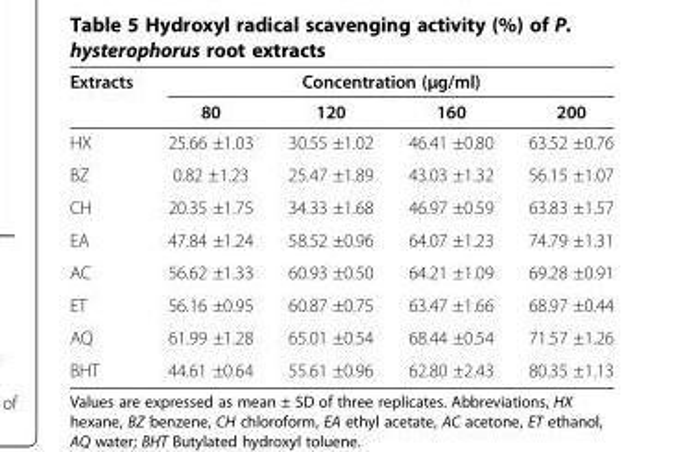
<table><thead><tr><td rowspan="2">Extracts</td><td colspan="4">Concentration (μg/ml)</td></tr><tr><td>80</td><td>120</td><td>160</td><td>200</td></tr></thead><tbody><tr><td>HX</td><td>25.66 ±1.03</td><td>30.55 ±1.02</td><td>46.41 ±0.80</td><td>63.52 ±0.76</td></tr><tr><td>BZ</td><td>0.82 ±1.23</td><td>25.47 ±1.89</td><td>43.03 ±1.32</td><td>56.15 ±1.07</td></tr><tr><td>CH</td><td>20.35 ±1.75</td><td>34.33 ±1.68</td><td>46.97 ±0.59</td><td>63.83 ±1.57</td></tr><tr><td>EA</td><td>47.84 ±1.24</td><td>58.52 ±0.96</td><td>64.07 ±1.23</td><td>74.79 ±1.31</td></tr><tr><td>AC</td><td>56.62 ±1.33</td><td>60.93 ±0.50</td><td>64.21 ±1.09</td><td>69.28 ±0.91</td></tr><tr><td>ET</td><td>56.16 ±0.95</td><td>60.87 ±0.75</td><td>63.47 ±1.66</td><td>68.97 ±0.44</td></tr><tr><td>AQ</td><td>61.99 ±1.28</td><td>65.01 ±0.54</td><td>68.44 ±0.54</td><td>71.57 ±1.26</td></tr><tr><td>BHT</td><td>44.61 ±0.64</td><td>55.61 ±0.96</td><td>62.80 ±2.43</td><td>80.35 ±1.13</td></tr></tbody></table>